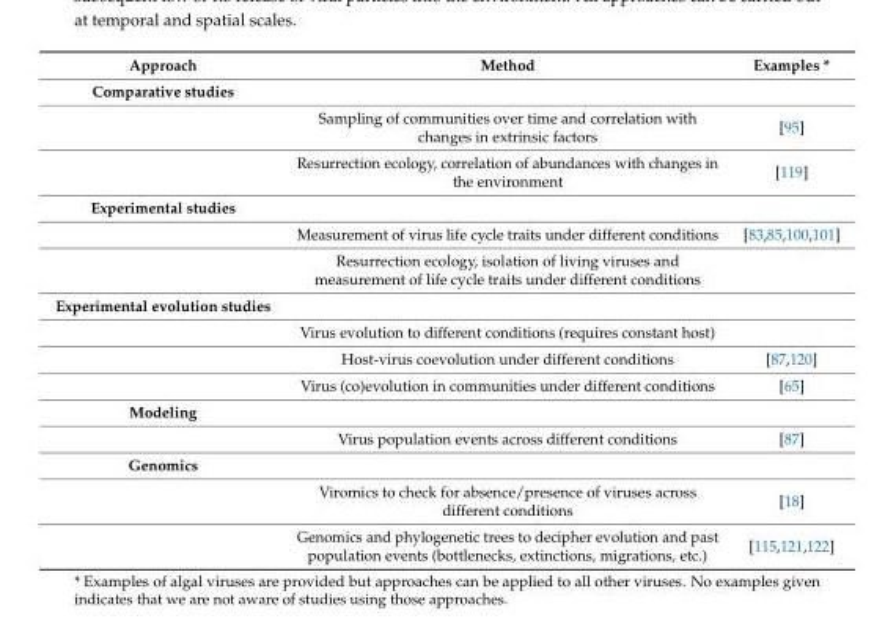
<table><thead><tr><td>Approach</td><td>Method</td><td>Examples *</td></tr></thead><tbody><tr><td colspan="3">Comparative studies</td></tr><tr><td></td><td>Sampling of communities over time and correlation with changes in extrinsic factors</td><td>[95]</td></tr><tr><td></td><td>Resurrection ecology, correlation of abundances with changes in the environment</td><td>[119]</td></tr><tr><td colspan="3">Experimental studies</td></tr><tr><td></td><td>Measurement of virus life cycle traits under different conditions</td><td>[83,85,100,101]</td></tr><tr><td></td><td>Resurrection ecology, isolation of living viruses and measurement of life cycle traits under different conditions</td><td></td></tr><tr><td colspan="3">Experimental evolution studies</td></tr><tr><td></td><td>Virus evolution to different conditions (requires constant host)</td><td></td></tr><tr><td></td><td>Host-virus coevolution under different conditions</td><td>[87,120]</td></tr><tr><td></td><td>Virus (co)evolution in communities under different conditions</td><td>[65]</td></tr><tr><td colspan="3">Modeling</td></tr><tr><td></td><td>Virus population events across different conditions</td><td>[87]</td></tr><tr><td colspan="3">Genomics</td></tr><tr><td></td><td>Viromics to check for absence/presence of viruses across different conditions</td><td>[18]</td></tr><tr><td></td><td>Genomics and phylogenetic trees to decipher evolution and past population events (bottlenecks, extinctions, migrations, etc.)</td><td>[115,121,122]</td></tr></tbody></table>